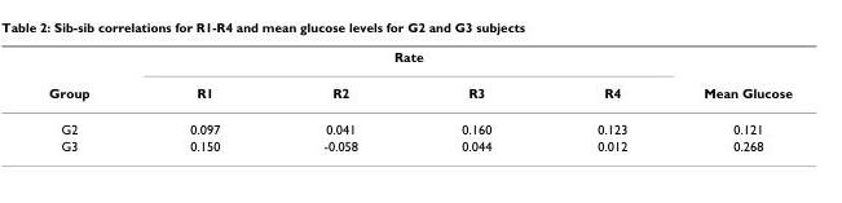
<table><thead><tr><td rowspan="2">Group</td><td colspan="4">Rate</td><td rowspan="2">Mean Glucose</td></tr><tr><td>R1</td><td>R2</td><td>R3</td><td>R4</td></tr></thead><tbody><tr><td>G2</td><td>0.097</td><td>0.041</td><td>0.160</td><td>0.123</td><td>0.121</td></tr><tr><td>G3</td><td>0.150</td><td>-0.058</td><td>0.044</td><td>0.012</td><td>0.268</td></tr></tbody></table>